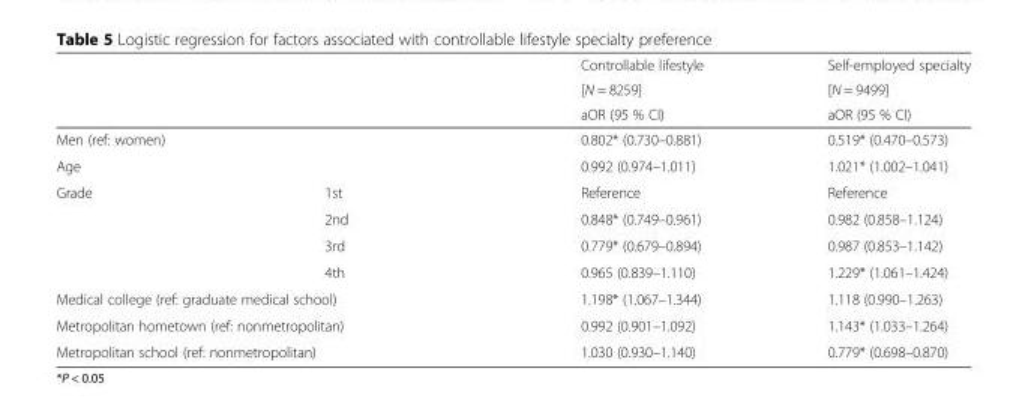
<table><thead><tr><td rowspan="3"></td><td rowspan="3"></td><td rowspan="3">Controllable lifestyle [N = 8259] aOR (95 % CI)</td><td rowspan="3">Self-employed specialty [N = 9499] aOR (95 % CI)</td></tr><tr></tr><tr></tr></thead><tbody><tr><td colspan="2">Men (ref: women)</td><td>0.802* (0.730–0.881)</td><td>0.519* (0.470–0.573)</td></tr><tr><td colspan="2">Age</td><td>0.992 (0.974–1.011)</td><td>1.021* (1.002–1.041)</td></tr><tr><td rowspan="4">Grade</td><td>1st</td><td>Reference</td><td>Reference</td></tr><tr><td>2nd</td><td>0.848* (0.749–0.961)</td><td>0.982 (0.858–1.124)</td></tr><tr><td>3rd</td><td>0.779* (0.679–0.894)</td><td>0.987 (0.853–1.142)</td></tr><tr><td>4th</td><td>0.965 (0.839–1.110)</td><td>1.229* (1.061–1.424)</td></tr><tr><td colspan="2">Medical college (ref: graduate medical school)</td><td>1.198* (1.067–1.344)</td><td>1.118 (0.990–1.263)</td></tr><tr><td colspan="2">Metropolitan hometown (ref: nonmetropolitan)</td><td>0.992 (0.901–1.092)</td><td>1.143* (1.033–1.264)</td></tr><tr><td colspan="2">Metropolitan school (ref: nonmetropolitan)</td><td>1.030 (0.930–1.140)</td><td>0.779* (0.698–0.870)</td></tr></tbody></table>